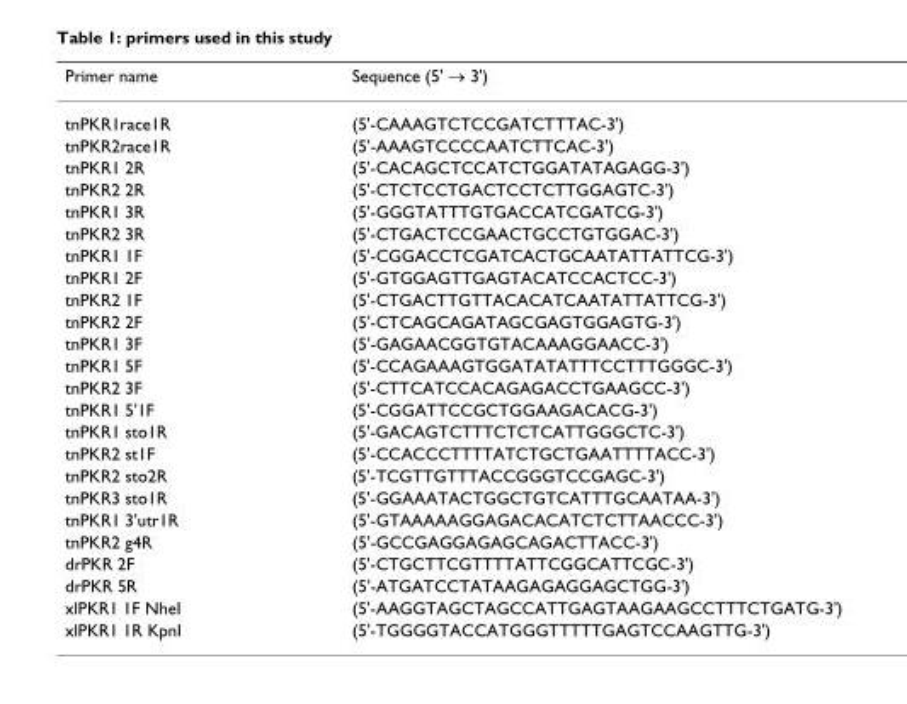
<table><thead><tr><td>Primer name</td><td>Sequence (5&#x27; → 3&#x27;)</td></tr></thead><tbody><tr><td>tnPKR1race1R</td><td>(5&#x27;-CAAAGTCTCCGATCTTTAC-3&#x27;)</td></tr><tr><td>tnPKR2race1R</td><td>(5&#x27;-AAAGTCCCCAATCTTCAC-3&#x27;)</td></tr><tr><td>tnPKR1 2R</td><td>(5&#x27;-CACAGCTCCATCTGGATATAGAGG-3&#x27;)</td></tr><tr><td>tnPKR2 2R</td><td>(5&#x27;-CTCTCCTGACTCCTCTTGGAGTC-3&#x27;)</td></tr><tr><td>tnPKR1 3R</td><td>(5&#x27;-GGGTATTTGTGACCATCGATCG-3&#x27;)</td></tr><tr><td>tnPKR2 3R</td><td>(5&#x27;-CTGACTCCGAACTGCCTGTGGAC-3&#x27;)</td></tr><tr><td>tnPKR1 1F</td><td>(5&#x27;-CGGACCTCGATCACTGCAATATTATTCG-3&#x27;)</td></tr><tr><td>tnPKR1 2F</td><td>(5&#x27;-GTGGAGTTGAGTACATCCACTCC-3&#x27;)</td></tr><tr><td>tnPKR2 1F</td><td>(5&#x27;-CTGACTTGTTACACATCAATATTATTCG-3&#x27;)</td></tr><tr><td>tnPKR2 2F</td><td>(5&#x27;-CTCAGCAGATAGCGAGTGGAGTG-3&#x27;)</td></tr><tr><td>tnPKR1 3F</td><td>(5&#x27;-GAGAACGGTGTACAAAGGAACC-3&#x27;)</td></tr><tr><td>tnPKR1 5F</td><td>(5&#x27;-CCAGAAAGTGGATATATTTCCTTTGGGC-3&#x27;)</td></tr><tr><td>tnPKR2 3F</td><td>(5&#x27;-CTTCATCCACAGAGACCTGAAGCC-3&#x27;)</td></tr><tr><td>tnPKR1 5&#x27;1F</td><td>(5&#x27;-CGGATTCCGCTGGAAGACACG-3&#x27;)</td></tr><tr><td>tnPKR1 sto1R</td><td>(5&#x27;-GACAGTCTTTCTCTCATTGGGCTC-3&#x27;)</td></tr><tr><td>tnPKR2 st1F</td><td>(5&#x27;-CCACCCTTTTATCTGCTGAATTTTACC-3&#x27;)</td></tr><tr><td>tnPKR2 sto2R</td><td>(5&#x27;-TCGTTGTTTACCGGGTCCGAGC-3&#x27;)</td></tr><tr><td>tnPKR3 sto1R</td><td>(5&#x27;-GGAAATACTGGCTGTCATTTGCAATAA-3&#x27;)</td></tr><tr><td>tnPKR1 3&#x27;utr1R</td><td>(5&#x27;-GTAAAAAGGAGACACATCTCTTAACCC-3&#x27;)</td></tr><tr><td>tnPKR2 g4R</td><td>(5&#x27;-GCCGAGGAGAGCAGACTTACC-3&#x27;)</td></tr><tr><td>drPKR 2F</td><td>(5&#x27;-CTGCTTCGTTTTATTCGGCATTCGC-3&#x27;)</td></tr><tr><td>drPKR 5R</td><td>(5&#x27;-ATGATCCTATAAGAGAGGAGCTGG-3&#x27;)</td></tr><tr><td>xlPKR1 1F NheI</td><td>(5&#x27;-AAGGTAGCTAGCCATTGAGTAAGAAGCCTTTCTGATG-3&#x27;)</td></tr><tr><td>xlPKR1 1R KpnI</td><td>(5&#x27;-TGGGGTACCATGGGTTTTTGAGTCCAAGTTG-3&#x27;)</td></tr></tbody></table>